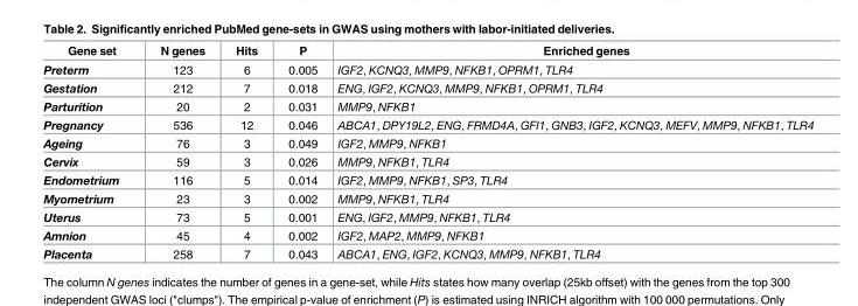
<table><thead><tr><td>Gene set</td><td>N genes</td><td>Hits</td><td>P</td><td>Enriched genes</td></tr></thead><tbody><tr><td>Preterm</td><td>123</td><td>6</td><td>0.005</td><td>IGF2, KCNQ3, MMP9, NFKB1, OPRM1, TLR4</td></tr><tr><td>Gestation</td><td>212</td><td>7</td><td>0.018</td><td>ENG, IGF2, KCNQ3, MMP9, NFKB1, OPRM1, TLR4</td></tr><tr><td>Parturition</td><td>20</td><td>2</td><td>0.031</td><td>MMP9, NFKB1</td></tr><tr><td>Pregnancy</td><td>536</td><td>12</td><td>0.046</td><td>ABCA1, DPY19L2, ENG, FRMD4A, GFI1, GNB3, IGF2, KCNQ3, MEFV, MMP9, NFKB1, TLR4</td></tr><tr><td>Ageing</td><td>76</td><td>3</td><td>0.049</td><td>IGF2, MMP9, NFKB1</td></tr><tr><td>Cervix</td><td>59</td><td>3</td><td>0.026</td><td>MMP9, NFKB1, TLR4</td></tr><tr><td>Endometrium</td><td>116</td><td>5</td><td>0.014</td><td>IGF2, MMP9, NFKB1, SP3, TLR4</td></tr><tr><td>Myometrium</td><td>23</td><td>3</td><td>0.002</td><td>MMP9, NFKB1, TLR4</td></tr><tr><td>Uterus</td><td>73</td><td>5</td><td>0.001</td><td>ENG, IGF2, MMP9, NFKB1, TLR4</td></tr><tr><td>Amnion</td><td>45</td><td>4</td><td>0.002</td><td>IGF2, MAP2, MMP9, NFKB1</td></tr><tr><td>Placenta</td><td>258</td><td>7</td><td>0.043</td><td>ABCA1, ENG, IGF2, KCNQ3, MMP9, NFKB1, TLR4</td></tr></tbody></table>